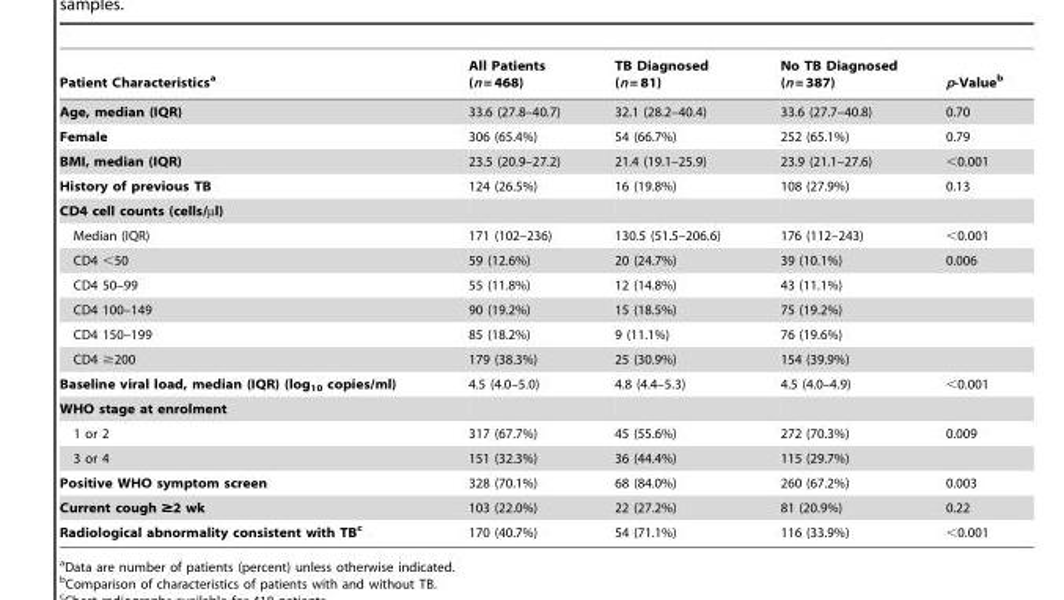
<table><thead><tr><td>Patient Characteristics<sup>a</sup></td><td>All Patients (n = 468)</td><td>TB Diagnosed (n = 81)</td><td>No TB Diagnosed (n = 387)</td><td>p-Value<sup>b</sup></td></tr></thead><tbody><tr><td>Age, median (IQR)</td><td>33.6 (27.8–40.7)</td><td>32.1 (28.2–40.4)</td><td>33.6 (27.7–40.8)</td><td>0.70</td></tr><tr><td>Female</td><td>306 (65.4%)</td><td>54 (66.7%)</td><td>252 (65.1%)</td><td>0.79</td></tr><tr><td>BMI, median (IQR)</td><td>23.5 (20.9–27.2)</td><td>21.4 (19.1–25.9)</td><td>23.9 (21.1–27.6)</td><td>&lt;0.001</td></tr><tr><td>History of previous TB</td><td>124 (26.5%)</td><td>16 (19.8%)</td><td>108 (27.9%)</td><td>0.13</td></tr><tr><td colspan="5">CD4 cell counts (cells/µl)</td></tr><tr><td>Median (IQR)</td><td>171 (102–236)</td><td>130.5 (51.5–206.6)</td><td>176 (112–243)</td><td>&lt;0.001</td></tr><tr><td>CD4 &lt;50</td><td>59 (12.6%)</td><td>20 (24.7%)</td><td>39 (10.1%)</td><td>0.006</td></tr><tr><td>CD4 50–99</td><td>55 (11.8%)</td><td>12 (14.8%)</td><td>43 (11.1%)</td><td></td></tr><tr><td>CD4 100–149</td><td>90 (19.2%)</td><td>15 (18.5%)</td><td>75 (19.2%)</td><td></td></tr><tr><td>CD4 150–199</td><td>85 (18.2%)</td><td>9 (11.1%)</td><td>76 (19.6%)</td><td></td></tr><tr><td>CD4 ≥200</td><td>179 (38.3%)</td><td>25 (30.9%)</td><td>154 (39.9%)</td><td></td></tr><tr><td>Baseline viral load, median (IQR) (log<sub>10</sub> copies/ml)</td><td>4.5 (4.0–5.0)</td><td>4.8 (4.4–5.3)</td><td>4.5 (4.0–4.9)</td><td>&lt;0.001</td></tr><tr><td colspan="5">WHO stage at enrolment</td></tr><tr><td>1 or 2</td><td>317 (67.7%)</td><td>45 (55.6%)</td><td>272 (70.3%)</td><td>0.009</td></tr><tr><td>3 or 4</td><td>151 (32.3%)</td><td>36 (44.4%)</td><td>115 (29.7%)</td><td></td></tr><tr><td>Positive WHO symptom screen</td><td>328 (70.1%)</td><td>68 (84.0%)</td><td>260 (67.2%)</td><td>0.003</td></tr><tr><td>Current cough ≥2 wk</td><td>103 (22.0%)</td><td>22 (27.2%)</td><td>81 (20.9%)</td><td>0.22</td></tr><tr><td>Radiological abnormality consistent with TBc</td><td>170 (40.7%)</td><td>54 (71.1%)</td><td>116 (33.9%)</td><td>&lt;0.001</td></tr></tbody></table>